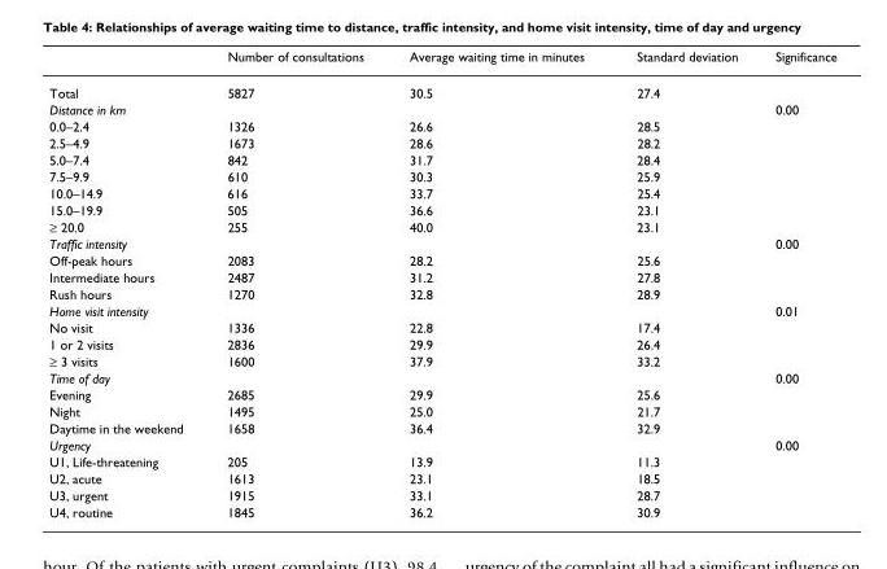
<table><thead><tr><td></td><td>Number of consultations</td><td>Average waiting time in minutes</td><td>Standard deviation</td><td>Significance</td></tr></thead><tbody><tr><td>Total</td><td>5827</td><td>30.5</td><td>27.4</td><td></td></tr><tr><td>Distance in km</td><td></td><td></td><td></td><td>0.00</td></tr><tr><td>0.0–2.4</td><td>1326</td><td>26.6</td><td>28.5</td><td></td></tr><tr><td>2.5–4.9</td><td>1673</td><td>28.6</td><td>28.2</td><td></td></tr><tr><td>5.0–7.4</td><td>842</td><td>31.7</td><td>28.4</td><td></td></tr><tr><td>7.5–9.9</td><td>610</td><td>30.3</td><td>25.9</td><td></td></tr><tr><td>10.0–14.9</td><td>616</td><td>33.7</td><td>25.4</td><td></td></tr><tr><td>15.0–19.9</td><td>505</td><td>36.6</td><td>23.1</td><td></td></tr><tr><td>≥ 20.0</td><td>255</td><td>40.0</td><td>23.1</td><td></td></tr><tr><td>Traffic intensity</td><td></td><td></td><td></td><td>0.00</td></tr><tr><td>Off-peak hours</td><td>2083</td><td>28.2</td><td>25.6</td><td></td></tr><tr><td>Intermediate hours</td><td>2487</td><td>31.2</td><td>27.8</td><td></td></tr><tr><td>Rush hours</td><td>1270</td><td>32.8</td><td>28.9</td><td></td></tr><tr><td>Home visit intensity</td><td></td><td></td><td></td><td>0.01</td></tr><tr><td>No visit</td><td>1336</td><td>22.8</td><td>17.4</td><td></td></tr><tr><td>1 or 2 visits</td><td>2836</td><td>29.9</td><td>26.4</td><td></td></tr><tr><td>≥ 3 visits</td><td>1600</td><td>37.9</td><td>33.2</td><td></td></tr><tr><td>Time of day</td><td></td><td></td><td></td><td>0.00</td></tr><tr><td>Evening</td><td>2685</td><td>29.9</td><td>25.6</td><td></td></tr><tr><td>Night</td><td>1495</td><td>25.0</td><td>21.7</td><td></td></tr><tr><td>Daytime in the weekend</td><td>1658</td><td>36.4</td><td>32.9</td><td></td></tr><tr><td>Urgency</td><td></td><td></td><td></td><td>0.00</td></tr><tr><td>U1, Life-threatening</td><td>205</td><td>13.9</td><td>11.3</td><td></td></tr><tr><td>U2, acute</td><td>1613</td><td>23.1</td><td>18.5</td><td></td></tr><tr><td>U3, urgent</td><td>1915</td><td>33.1</td><td>28.7</td><td></td></tr><tr><td>U4, routine</td><td>1845</td><td>36.2</td><td>30.9</td><td></td></tr></tbody></table>